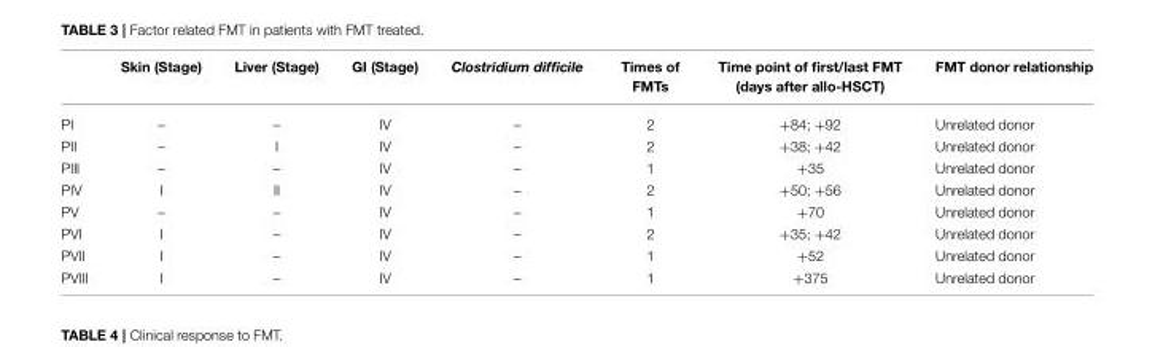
<table><thead><tr><td></td><td>Skin (Stage)</td><td>Liver (Stage)</td><td>GI (Stage)</td><td>Clostridium difficile</td><td>Times of FMTs</td><td>Time point of first/last FMT (days after allo-HSCT)</td><td>FMT donor relationship</td></tr></thead><tbody><tr><td>PI</td><td>–</td><td>–</td><td>IV</td><td>–</td><td>2</td><td>+84; +92</td><td>Unrelated donor</td></tr><tr><td>PII</td><td>–</td><td>I</td><td>IV</td><td>–</td><td>2</td><td>+38; +42</td><td>Unrelated donor</td></tr><tr><td>PIII</td><td>–</td><td>–</td><td>IV</td><td>–</td><td>1</td><td>+35</td><td>Unrelated donor</td></tr><tr><td>PIV</td><td>I</td><td>II</td><td>IV</td><td>–</td><td>2</td><td>+50; +56</td><td>Unrelated donor</td></tr><tr><td>PV</td><td>–</td><td>–</td><td>IV</td><td>–</td><td>1</td><td>+70</td><td>Unrelated donor</td></tr><tr><td>PVI</td><td>I</td><td>–</td><td>IV</td><td>–</td><td>2</td><td>+35; +42</td><td>Unrelated donor</td></tr><tr><td>PVII</td><td>I</td><td>–</td><td>IV</td><td>–</td><td>1</td><td>+52</td><td>Unrelated donor</td></tr><tr><td>PVIII</td><td>I</td><td>–</td><td>IV</td><td>–</td><td>1</td><td>+375</td><td>Unrelated donor</td></tr></tbody></table>